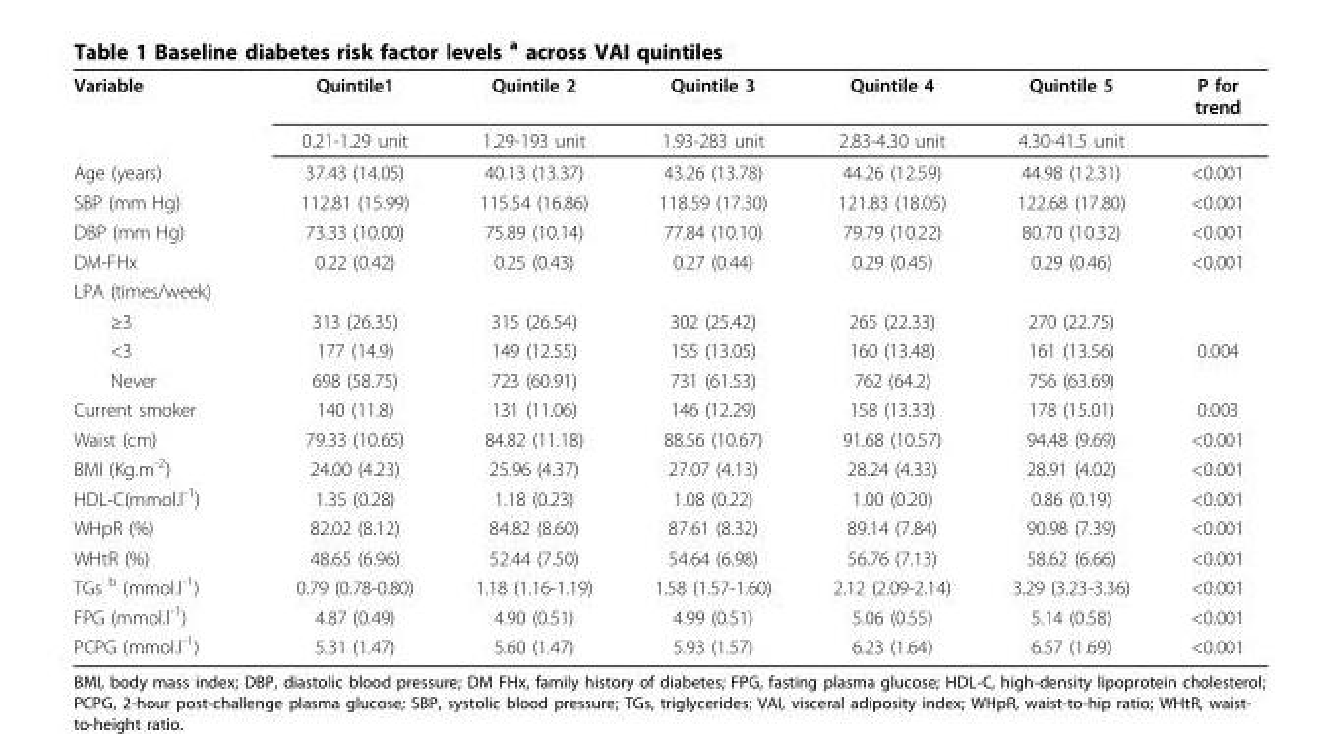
<table><tbody><tr><td rowspan="2">Variable</td><td>Quintile1</td><td>Quintile 2</td><td>Quintile 3</td><td>Quintile 4</td><td>Quintile 5</td><td>P for trend</td></tr><tr><td>0.21-1.29 unit</td><td>1.29-193 unit</td><td>1.93-283 unit</td><td>2.83-4.30 unit</td><td>4.30-41.5 unit</td><td></td></tr><tr><td>Age (years)</td><td>37.43 (14.05)</td><td>40.13 (13.37)</td><td>43.26 (13.78)</td><td>44.26 (12.59)</td><td>44.98 (12.31)</td><td>&lt;0.001</td></tr><tr><td>SBP (mm Hg)</td><td>112.81 (15.99)</td><td>115.54 (16.86)</td><td>118.59 (17.30)</td><td>121.83 (18.05)</td><td>122.68 (17.80)</td><td>&lt;0.001</td></tr><tr><td>DBP (mm Hg)</td><td>73.33 (10.00)</td><td>75.89 (10.14)</td><td>77.84 (10.10)</td><td>79.79 (10.22)</td><td>80.70 (10.32)</td><td>&lt;0.001</td></tr><tr><td>DM-FHx</td><td>0.22 (0.42)</td><td>0.25 (0.43)</td><td>0.27 (0.44)</td><td>0.29 (0.45)</td><td>0.29 (0.46)</td><td>&lt;0.001</td></tr><tr><td colspan="7">LPA (times/week)</td></tr><tr><td>≥3</td><td>313 (26.35)</td><td>315 (26.54)</td><td>302 (25.42)</td><td>265 (22.33)</td><td>270 (22.75)</td><td></td></tr><tr><td>&lt;3</td><td>177 (14.9)</td><td>149 (12.55)</td><td>155 (13.05)</td><td>160 (13.48)</td><td>161 (13.56)</td><td>0.004</td></tr><tr><td>Never</td><td>698 (58.75)</td><td>723 (60.91)</td><td>731 (61.53)</td><td>762 (64.2)</td><td>756 (63.69)</td><td></td></tr><tr><td>Current smoker</td><td>140 (11.8)</td><td>131 (11.06)</td><td>146 (12.29)</td><td>158 (13.33)</td><td>178 (15.01)</td><td>0.003</td></tr><tr><td>Waist (cm)</td><td>79.33 (10.65)</td><td>84.82 (11.18)</td><td>88.56 (10.67)</td><td>91.68 (10.57)</td><td>94.48 (9.69)</td><td>&lt;0.001</td></tr><tr><td>BMI (Kg.m<sup>-2</sup>)</td><td>24.00 (4.23)</td><td>25.96 (4.37)</td><td>27.07 (4.13)</td><td>28.24 (4.33)</td><td>28.91 (4.02)</td><td>&lt;0.001</td></tr><tr><td>HDL-C(mmol.l<sup>-1</sup>)</td><td>1.35 (0.28)</td><td>1.18 (0.23)</td><td>1.08 (0.22)</td><td>1.00 (0.20)</td><td>0.86 (0.19)</td><td>&lt;0.001</td></tr><tr><td>WHpR (%)</td><td>82.02 (8.12)</td><td>84.82 (8.60)</td><td>87.61 (8.32)</td><td>89.14 (7.84)</td><td>90.98 (7.39)</td><td>&lt;0.001</td></tr><tr><td>WHtR (%)</td><td>48.65 (6.96)</td><td>52.44 (7.50)</td><td>54.64 (6.98)</td><td>56.76 (7.13)</td><td>58.62 (6.66)</td><td>&lt;0.001</td></tr><tr><td>TGs <sup>b</sup> (mmol.l<sup>-1</sup>)</td><td>0.79 (0.78-0.80)</td><td>1.18 (1.16-1.19)</td><td>1.58 (1.57-1.60)</td><td>2.12 (2.09-2.14)</td><td>3.29 (3.23-3.36)</td><td>&lt;0.001</td></tr><tr><td>FPG (mmol.l<sup>-1</sup>)</td><td>4.87 (0.49)</td><td>4.90 (0.51)</td><td>4.99 (0.51)</td><td>5.06 (0.55)</td><td>5.14 (0.58)</td><td>&lt;0.001</td></tr><tr><td>PCPG (mmol.l<sup>-1</sup>)</td><td>5.31 (1.47)</td><td>5.60 (1.47)</td><td>5.93 (1.57)</td><td>6.23 (1.64)</td><td>6.57 (1.69)</td><td>&lt;0.001</td></tr></tbody></table>